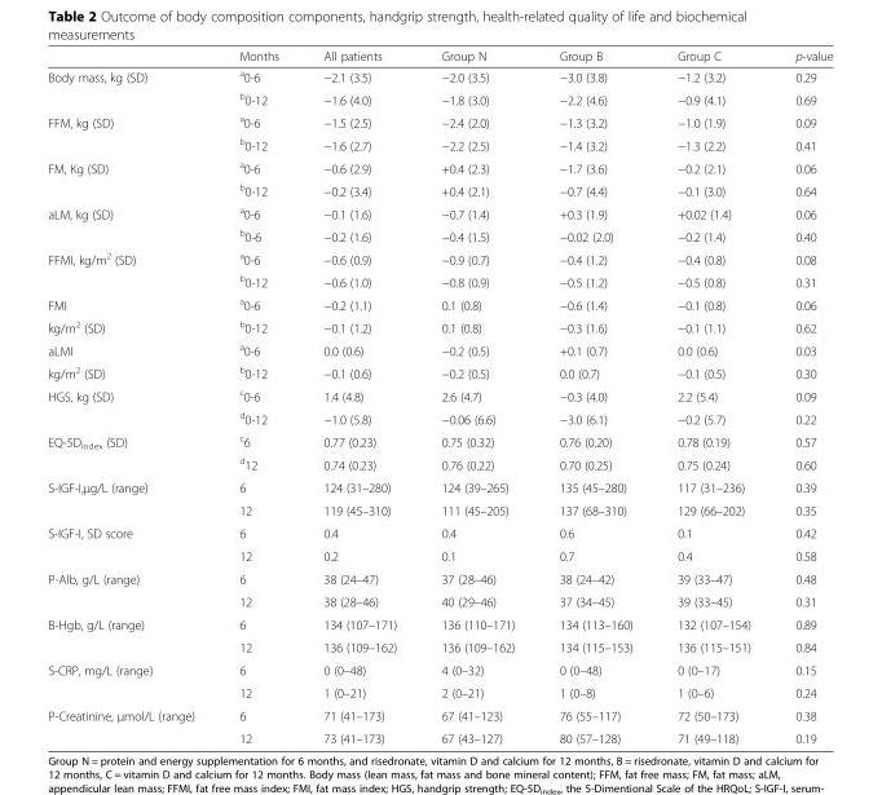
<table><thead><tr><td></td><td>Months</td><td>All patients</td><td>Group N</td><td>Group B</td><td>Group C</td><td>p-value</td></tr></thead><tbody><tr><td rowspan="2">Body mass, kg (SD)</td><td><sup>a</sup>0-6</td><td>−2.1 (3.5)</td><td>−2.0 (3.5)</td><td>−3.0 (3.8)</td><td>−1.2 (3.2)</td><td>0.29</td></tr><tr><td><sup>b</sup>0-12</td><td>−1.6 (4.0)</td><td>−1.8 (3.0)</td><td>−2.2 (4.6)</td><td>−0.9 (4.1)</td><td>0.69</td></tr><tr><td rowspan="2">FFM, kg (SD)</td><td><sup>a</sup>0-6</td><td>−1.5 (2.5)</td><td>−2.4 (2.0)</td><td>−1.3 (3.2)</td><td>−1.0 (1.9)</td><td>0.09</td></tr><tr><td><sup>b</sup>0-12</td><td>−1.6 (2.7)</td><td>−2.2 (2.5)</td><td>−1.4 (3.2)</td><td>−1.3 (2.2)</td><td>0.41</td></tr><tr><td rowspan="2">FM, Kg (SD)</td><td><sup>a</sup>0-6</td><td>−0.6 (2.9)</td><td>+0.4 (2.3)</td><td>−1.7 (3.6)</td><td>−0.2 (2.1)</td><td>0.06</td></tr><tr><td><sup>b</sup>0-12</td><td>−0.2 (3.4)</td><td>+0.4 (2.1)</td><td>−0.7 (4.4)</td><td>−0.1 (3.0)</td><td>0.64</td></tr><tr><td rowspan="2">aLM, kg (SD)</td><td><sup>a</sup>0-6</td><td>−0.1 (1.6)</td><td>−0.7 (1.4)</td><td>+0.3 (1.9)</td><td>+0.02 (1.4)</td><td>0.06</td></tr><tr><td><sup>b</sup>0-6</td><td>−0.2 (1.6)</td><td>−0.4 (1.5)</td><td>−0.02 (2.0)</td><td>−0.2 (1.4)</td><td>0.40</td></tr><tr><td rowspan="2">FFMI, kg/m<sup>2</sup> (SD)</td><td><sup>a</sup>0-6</td><td>−0.6 (0.9)</td><td>−0.9 (0.7)</td><td>−0.4 (1.2)</td><td>−0.4 (0.8)</td><td>0.08</td></tr><tr><td><sup>b</sup>0-12</td><td>−0.6 (1.0)</td><td>−0.8 (0.9)</td><td>−0.5 (1.2)</td><td>−0.5 (0.8)</td><td>0.31</td></tr><tr><td>FMI</td><td><sup>a</sup>0-6</td><td>−0.2 (1.1)</td><td>0.1 (0.8)</td><td>−0.6 (1.4)</td><td>−0.1 (0.8)</td><td>0.06</td></tr><tr><td>kg/m<sup>2</sup> (SD)</td><td><sup>b</sup>0-12</td><td>−0.1 (1.2)</td><td>0.1 (0.8)</td><td>−0.3 (1.6)</td><td>−0.1 (1.1)</td><td>0.62</td></tr><tr><td>aLMI</td><td><sup>a</sup>0-6</td><td>0.0 (0.6)</td><td>−0.2 (0.5)</td><td>+0.1 (0.7)</td><td>0.0 (0.6)</td><td>0.03</td></tr><tr><td>kg/m<sup>2</sup> (SD)</td><td><sup>b</sup>0-12</td><td>−0.1 (0.6)</td><td>−0.2 (0.5)</td><td>0.0 (0.7)</td><td>−0.1 (0.5)</td><td>0.30</td></tr><tr><td rowspan="2">HGS, kg (SD)</td><td><sup>c</sup>0-6</td><td>1.4 (4.8)</td><td>2.6 (4.7)</td><td>−0.3 (4.0)</td><td>2.2 (5.4)</td><td>0.09</td></tr><tr><td><sup>d</sup>0-12</td><td>−1.0 (5.8)</td><td>−0.06 (6.6)</td><td>−3.0 (6.1)</td><td>−0.2 (5.7)</td><td>0.22</td></tr><tr><td rowspan="2">EQ-5D<sub>index</sub> (SD)</td><td><sup>c</sup>6</td><td>0.77 (0.23)</td><td>0.75 (0.32)</td><td>0.76 (0.20)</td><td>0.78 (0.19)</td><td>0.57</td></tr><tr><td><sup>d</sup>12</td><td>0.74 (0.23)</td><td>0.76 (0.22)</td><td>0.70 (0.25)</td><td>0.75 (0.24)</td><td>0.60</td></tr><tr><td rowspan="2">S-IGF-I,μg/L (range)</td><td>6</td><td>124 (31–280)</td><td>124 (39–265)</td><td>135 (45–280)</td><td>117 (31–236)</td><td>0.39</td></tr><tr><td>12</td><td>119 (45–310)</td><td>111 (45–205)</td><td>137 (68–310)</td><td>129 (66–202)</td><td>0.35</td></tr><tr><td rowspan="2">S-IGF-I, SD score</td><td>6</td><td>0.4</td><td>0.4</td><td>0.6</td><td>0.1</td><td>0.42</td></tr><tr><td>12</td><td>0.2</td><td>0.1</td><td>0.7</td><td>0.4</td><td>0.58</td></tr><tr><td rowspan="2">P-Alb, g/L (range)</td><td>6</td><td>38 (24–47)</td><td>37 (28–46)</td><td>38 (24–42)</td><td>39 (33–47)</td><td>0.48</td></tr><tr><td>12</td><td>38 (28–46)</td><td>40 (29–46)</td><td>37 (34–45)</td><td>39 (33–45)</td><td>0.31</td></tr><tr><td rowspan="2">B-Hgb, g/L (range)</td><td>6</td><td>134 (107–171)</td><td>136 (110–171)</td><td>134 (113–160)</td><td>132 (107–154)</td><td>0.89</td></tr><tr><td>12</td><td>136 (109–162)</td><td>136 (109–162)</td><td>134 (115–153)</td><td>136 (115–151)</td><td>0.84</td></tr><tr><td rowspan="2">S-CRP, mg/L (range)</td><td>6</td><td>0 (0–48)</td><td>4 (0–32)</td><td>0 (0–48)</td><td>0 (0–17)</td><td>0.15</td></tr><tr><td>12</td><td>1 (0–21)</td><td>2 (0–21)</td><td>1 (0–8)</td><td>1 (0–6)</td><td>0.24</td></tr><tr><td rowspan="2">P-Creatinine, μmol/L (range)</td><td>6</td><td>71 (41–173)</td><td>67 (41–123)</td><td>76 (55–117)</td><td>72 (50–173)</td><td>0.38</td></tr><tr><td>12</td><td>73 (41–173)</td><td>67 (43–127)</td><td>80 (57–128)</td><td>71 (49–118)</td><td>0.19</td></tr></tbody></table>